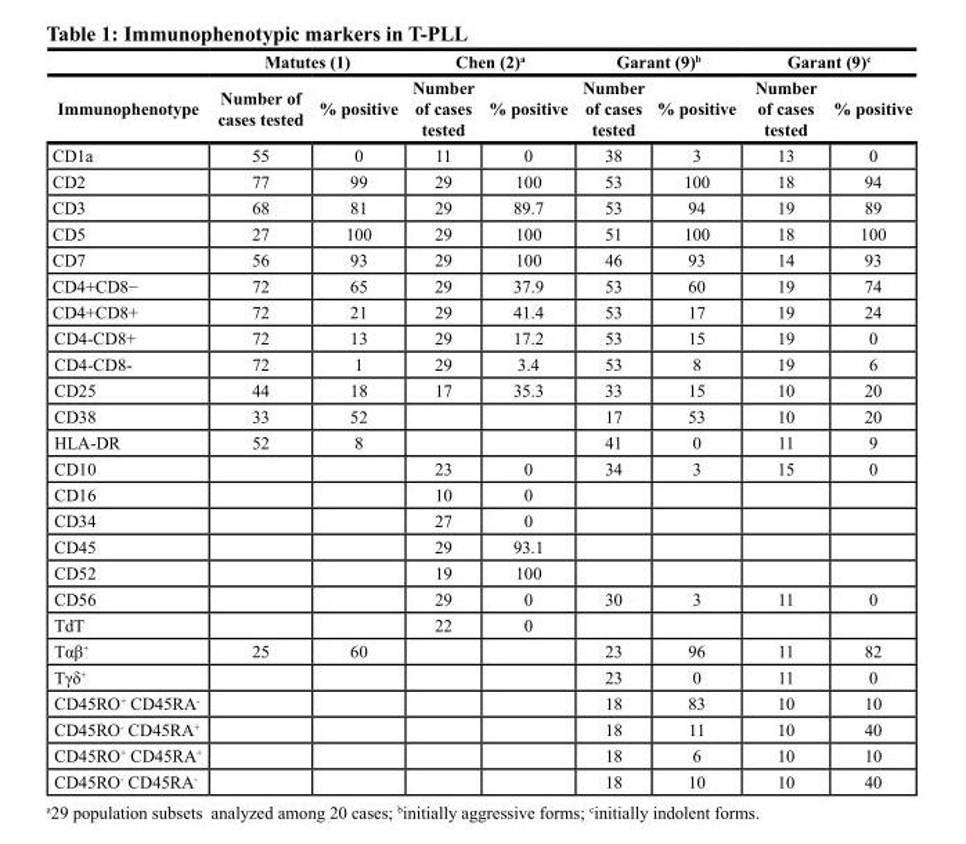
<table><thead><tr><td rowspan="2">Immunophenotype</td><td colspan="2">Matutes (1)</td><td colspan="2">Chen (2)<sup>a</sup></td><td colspan="2">Garant (9)<sup>b</sup></td><td colspan="2">Garant (9)<sup>c</sup></td></tr><tr><td>Number of cases tested</td><td>% positive</td><td>Number of cases tested</td><td>% positive</td><td>Number of cases tested</td><td>% positive</td><td>Number of cases tested</td><td>% positive</td></tr></thead><tbody><tr><td>CD1a</td><td>55</td><td>0</td><td>11</td><td>0</td><td>38</td><td>3</td><td>13</td><td>0</td></tr><tr><td>CD2</td><td>77</td><td>99</td><td>29</td><td>100</td><td>53</td><td>100</td><td>18</td><td>94</td></tr><tr><td>CD3</td><td>68</td><td>81</td><td>29</td><td>89.7</td><td>53</td><td>94</td><td>19</td><td>89</td></tr><tr><td>CD5</td><td>27</td><td>100</td><td>29</td><td>100</td><td>51</td><td>100</td><td>18</td><td>100</td></tr><tr><td>CD7</td><td>56</td><td>93</td><td>29</td><td>100</td><td>46</td><td>93</td><td>14</td><td>93</td></tr><tr><td>CD4+CD8−</td><td>72</td><td>65</td><td>29</td><td>37.9</td><td>53</td><td>60</td><td>19</td><td>74</td></tr><tr><td>CD4+CD8+</td><td>72</td><td>21</td><td>29</td><td>41.4</td><td>53</td><td>17</td><td>19</td><td>24</td></tr><tr><td>CD4-CD8+</td><td>72</td><td>13</td><td>29</td><td>17.2</td><td>53</td><td>15</td><td>19</td><td>0</td></tr><tr><td>CD4-CD8-</td><td>72</td><td>1</td><td>29</td><td>3.4</td><td>53</td><td>8</td><td>19</td><td>6</td></tr><tr><td>CD25</td><td>44</td><td>18</td><td>17</td><td>35.3</td><td>33</td><td>15</td><td>10</td><td>20</td></tr><tr><td>CD38</td><td>33</td><td>52</td><td></td><td></td><td>17</td><td>53</td><td>10</td><td>20</td></tr><tr><td>HLA-DR</td><td>52</td><td>8</td><td></td><td></td><td>41</td><td>0</td><td>11</td><td>9</td></tr><tr><td>CD10</td><td></td><td></td><td>23</td><td>0</td><td>34</td><td>3</td><td>15</td><td>0</td></tr><tr><td>CD16</td><td></td><td></td><td>10</td><td>0</td><td></td><td></td><td></td><td></td></tr><tr><td>CD34</td><td></td><td></td><td>27</td><td>0</td><td></td><td></td><td></td><td></td></tr><tr><td>CD45</td><td></td><td></td><td>29</td><td>93.1</td><td></td><td></td><td></td><td></td></tr><tr><td>CD52</td><td></td><td></td><td>19</td><td>100</td><td></td><td></td><td></td><td></td></tr><tr><td>CD56</td><td></td><td></td><td>29</td><td>0</td><td>30</td><td>3</td><td>11</td><td>0</td></tr><tr><td>TdT</td><td></td><td></td><td>22</td><td>0</td><td></td><td></td><td></td><td></td></tr><tr><td>Tαβ<sup>+</sup></td><td>25</td><td>60</td><td></td><td></td><td>23</td><td>96</td><td>11</td><td>82</td></tr><tr><td>Tγδ<sup>+</sup></td><td></td><td></td><td></td><td></td><td>23</td><td>0</td><td>11</td><td>0</td></tr><tr><td>CD45RO<sup>+</sup> CD45RA<sup>-</sup></td><td></td><td></td><td></td><td></td><td>18</td><td>83</td><td>10</td><td>10</td></tr><tr><td>CD45RO<sup>-</sup> CD45RA<sup>+</sup></td><td></td><td></td><td></td><td></td><td>18</td><td>11</td><td>10</td><td>40</td></tr><tr><td>CD45RO<sup>+</sup> CD45RA<sup>+</sup></td><td></td><td></td><td></td><td></td><td>18</td><td>6</td><td>10</td><td>10</td></tr><tr><td>CD45RO<sup>-</sup> CD45RA<sup>-</sup></td><td></td><td></td><td></td><td></td><td>18</td><td>10</td><td>10</td><td>40</td></tr></tbody></table>